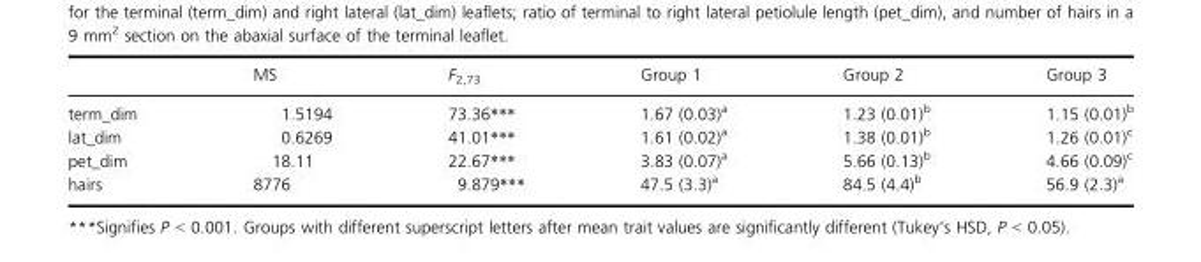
<table><thead><tr><td></td><td>MS</td><td>F<sub>2,73</sub></td><td>Group 1</td><td>Group 2</td><td>Group 3</td></tr></thead><tbody><tr><td>term_dim</td><td>1.5194</td><td>73.36***</td><td>1.67 (0.03)<sup>a</sup></td><td>1.23 (0.01)<sup>b</sup></td><td>1.15 (0.01)<sup>b</sup></td></tr><tr><td>lat_dim</td><td>0.6269</td><td>41.01***</td><td>1.61 (0.02)<sup>a</sup></td><td>1.38 (0.01)<sup>b</sup></td><td>1.26 (0.01)<sup>c</sup></td></tr><tr><td>pet_dim</td><td>18.11</td><td>22.67***</td><td>3.83 (0.07)<sup>a</sup></td><td>5.66 (0.13)<sup>b</sup></td><td>4.66 (0.09)<sup>c</sup></td></tr><tr><td>hairs</td><td>8776</td><td>9.879***</td><td>47.5 (3.3)<sup>a</sup></td><td>84.5 (4.4)<sup>b</sup></td><td>56.9 (2.3)<sup>a</sup></td></tr></tbody></table>